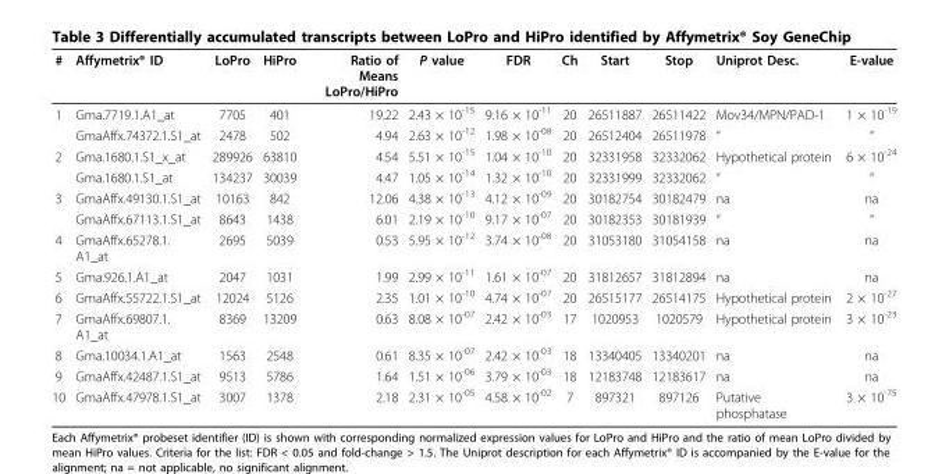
<table><thead><tr><td>#</td><td>Affymetrix<sup>®</sup> ID</td><td>LoPro</td><td>HiPro</td><td>Ratio of Means LoPro/HiPro</td><td>P value</td><td>FDR</td><td>Ch</td><td>Start</td><td>Stop</td><td>Uniprot Desc.</td><td>E-value</td></tr></thead><tbody><tr><td rowspan="2">1</td><td>Gma.7719.1.A1_at</td><td>7705</td><td>401</td><td>19.22</td><td>2.43 × 10<sup>-15</sup></td><td>9.16 × 10<sup>-11</sup></td><td>20</td><td>26511887</td><td>26511422</td><td>Mov34/MPN/PAD-1</td><td>1 × 10<sup>-19</sup></td></tr><tr><td>GmaAffx.74372.1.S1_at</td><td>2478</td><td>502</td><td>4.94</td><td>2.63 × 10<sup>-12</sup></td><td>1.98 × 10<sup>-08</sup></td><td>20</td><td>26512404</td><td>26511978</td><td>“</td><td>“</td></tr><tr><td rowspan="2">2</td><td>Gma.1680.1.S1_x_at</td><td>289926</td><td>63810</td><td>4.54</td><td>5.51 × 10<sup>-15</sup></td><td>1.04 × 10<sup>-10</sup></td><td>20</td><td>32331958</td><td>32332062</td><td>Hypothetical protein</td><td>6 × 10<sup>-24</sup></td></tr><tr><td>Gma.1680.1.S1_at</td><td>134237</td><td>30039</td><td>4.47</td><td>1.05 × 10<sup>-14</sup></td><td>1.32 × 10<sup>-10</sup></td><td>20</td><td>32331999</td><td>32332062</td><td>“</td><td>“</td></tr><tr><td rowspan="2">3</td><td>GmaAffx.49130.1.S1_at</td><td>10163</td><td>842</td><td>12.06</td><td>4.38 × 10<sup>-13</sup></td><td>4.12 × 10<sup>-09</sup></td><td>20</td><td>30182754</td><td>30182479</td><td>na</td><td>na</td></tr><tr><td>GmaAffx.67113.1.S1_at</td><td>8643</td><td>1438</td><td>6.01</td><td>2.19 × 10<sup>-10</sup></td><td>9.17 × 10<sup>-07</sup></td><td>20</td><td>30182353</td><td>30181939</td><td>“</td><td>“</td></tr><tr><td>4</td><td>GmaAffx.65278.1. A1_at</td><td>2695</td><td>5039</td><td>0.53</td><td>5.95 × 10<sup>-12</sup></td><td>3.74 × 10<sup>-08</sup></td><td>20</td><td>31053180</td><td>31054158</td><td>na</td><td>na</td></tr><tr><td>5</td><td>Gma.926.1.A1_at</td><td>2047</td><td>1031</td><td>1.99</td><td>2.99 × 10<sup>-11</sup></td><td>1.61 × 10<sup>-07</sup></td><td>20</td><td>31812657</td><td>31812894</td><td>na</td><td>na</td></tr><tr><td>6</td><td>GmaAffx.55722.1.S1_at</td><td>12024</td><td>5126</td><td>2.35</td><td>1.01 × 10<sup>-10</sup></td><td>4.74 × 10<sup>-07</sup></td><td>20</td><td>26515177</td><td>26514175</td><td>Hypothetical protein</td><td>2 × 10<sup>-27</sup></td></tr><tr><td>7</td><td>GmaAffx.69807.1. A1_at</td><td>8369</td><td>13209</td><td>0.63</td><td>8.08 × 10<sup>-07</sup></td><td>2.42 × 10<sup>-03</sup></td><td>17</td><td>1020953</td><td>1020579</td><td>Hypothetical protein</td><td>3 × 10<sup>-23</sup></td></tr><tr><td>8</td><td>Gma.10034.1.A1_at</td><td>1563</td><td>2548</td><td>0.61</td><td>8.35 × 10<sup>-07</sup></td><td>2.42 × 10<sup>-03</sup></td><td>18</td><td>13340405</td><td>13340201</td><td>na</td><td>na</td></tr><tr><td>9</td><td>GmaAffx.42487.1.S1_at</td><td>9513</td><td>5786</td><td>1.64</td><td>1.51 × 10<sup>-06</sup></td><td>3.79 × 10<sup>-03</sup></td><td>18</td><td>12183748</td><td>12183617</td><td>na</td><td>na</td></tr><tr><td>10</td><td>GmaAffx.47978.1.S1_at</td><td>3007</td><td>1378</td><td>2.18</td><td>2.31 × 10<sup>-05</sup></td><td>4.58 × 10<sup>-02</sup></td><td>7</td><td>897321</td><td>897126</td><td>Putative phosphatase</td><td>3 × 10<sup>-75</sup></td></tr></tbody></table>